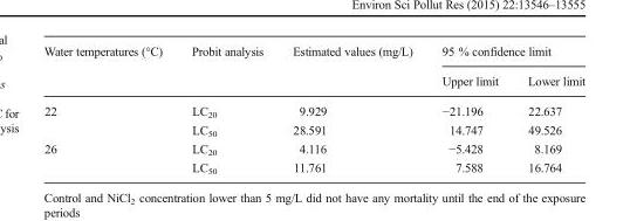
<table><thead><tr><td rowspan="2">Water temperatures (°C)</td><td rowspan="2">Probit analysis</td><td rowspan="2">Estimated values (mg/L)</td><td colspan="2">95 % confidence limit</td></tr><tr><td>Upper limit</td><td>Lower limit</td></tr></thead><tbody><tr><td rowspan="2">22</td><td>LC<sub>20</sub></td><td>9.929</td><td>−21.196</td><td>22.637</td></tr><tr><td>LC<sub>50</sub></td><td>28.591</td><td>14.747</td><td>49.526</td></tr><tr><td rowspan="2">26</td><td>LC<sub>20</sub></td><td>4.116</td><td>−5.428</td><td>8.169</td></tr><tr><td>LC<sub>50</sub></td><td>11.761</td><td>7.588</td><td>16.764</td></tr></tbody></table>